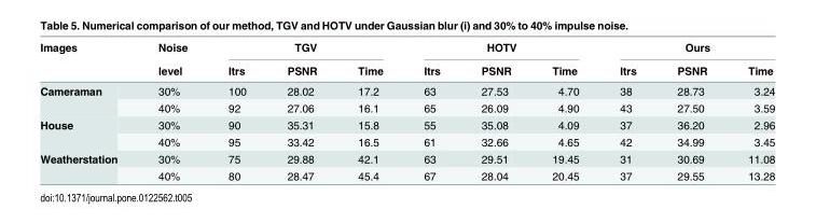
<table><thead><tr><td rowspan="2">Images</td><td rowspan="2">Noise level</td><td colspan="3">TGV</td><td colspan="3">HOTV</td><td colspan="3">Ours</td></tr><tr><td>Itrs</td><td>PSNR</td><td>Time</td><td>Itrs</td><td>PSNR</td><td>Time</td><td>Itrs</td><td>PSNR</td><td>Time</td></tr></thead><tbody><tr><td rowspan="2">Cameraman</td><td>30%</td><td>100</td><td>28.02</td><td>17.2</td><td>63</td><td>27.53</td><td>4.70</td><td>38</td><td>28.73</td><td>3.24</td></tr><tr><td>40%</td><td>92</td><td>27.06</td><td>16.1</td><td>65</td><td>26.09</td><td>4.90</td><td>43</td><td>27.50</td><td>3.59</td></tr><tr><td rowspan="2">House</td><td>30%</td><td>90</td><td>35.31</td><td>15.8</td><td>55</td><td>35.08</td><td>4.09</td><td>37</td><td>36.20</td><td>2.96</td></tr><tr><td>40%</td><td>95</td><td>33.42</td><td>16.5</td><td>61</td><td>32.66</td><td>4.65</td><td>42</td><td>34.99</td><td>3.45</td></tr><tr><td rowspan="2">Weatherstation</td><td>30%</td><td>75</td><td>29.88</td><td>42.1</td><td>63</td><td>29.51</td><td>19.45</td><td>31</td><td>30.69</td><td>11.08</td></tr><tr><td>40%</td><td>80</td><td>28.47</td><td>45.4</td><td>67</td><td>28.04</td><td>20.45</td><td>37</td><td>29.55</td><td>13.28</td></tr></tbody></table>